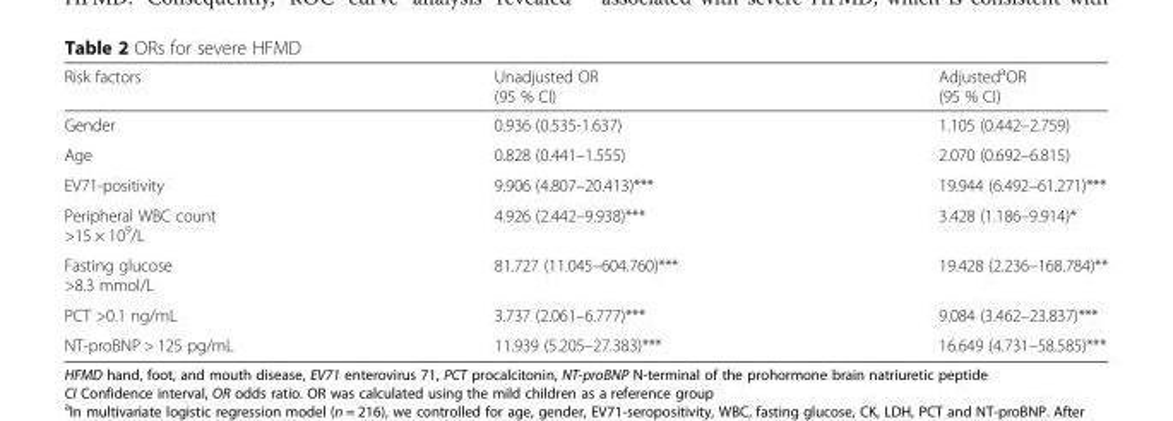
<table><thead><tr><td>Risk factors</td><td>Unadjusted OR (95 % CI)</td><td>Adjusted<sup>a</sup>OR (95 % CI)</td></tr></thead><tbody><tr><td>Gender</td><td>0.936 (0.535-1.637)</td><td>1.105 (0.442–2.759)</td></tr><tr><td>Age</td><td>0.828 (0.441–1.555)</td><td>2.070 (0.692–6.815)</td></tr><tr><td>EV71-positivity</td><td>9.906 (4.807–20.413)***</td><td>19.944 (6.492–61.271)***</td></tr><tr><td>Peripheral WBC count &gt;15 × 10<sup>9</sup>/L</td><td>4.926 (2.442–9.938)***</td><td>3.428 (1.186–9.914)*</td></tr><tr><td>Fasting glucose &gt;8.3 mmol/L</td><td>81.727 (11.045–604.760)***</td><td>19.428 (2.236–168.784)**</td></tr><tr><td>PCT &gt;0.1 ng/mL</td><td>3.737 (2.061–6.777)***</td><td>9.084 (3.462–23.837)***</td></tr><tr><td>NT-proBNP &gt; 125 pg/mL</td><td>11.939 (5.205–27.383)***</td><td>16.649 (4.731–58.585)***</td></tr></tbody></table>